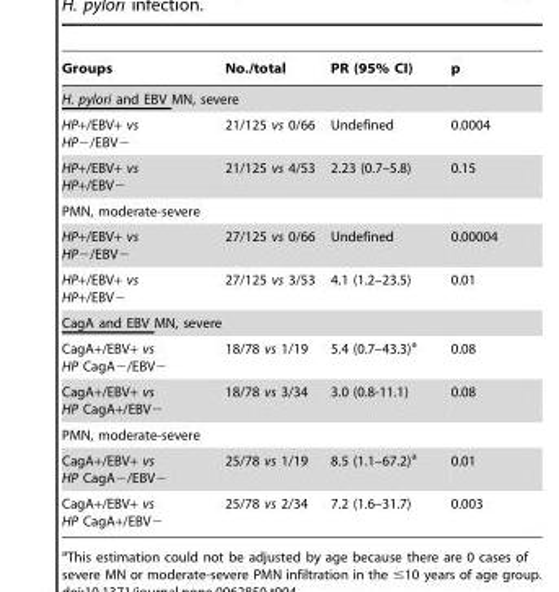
<table><thead><tr><td>Groups</td><td>No./total</td><td>PR (95% CI)</td><td>p</td></tr></thead><tbody><tr><td colspan="4">H. pylori and EBV MN, severe</td></tr><tr><td>HP+/EBV+ vs HP−/EBV−</td><td>21/125 vs 0/66</td><td>Undefined</td><td>0.0004</td></tr><tr><td>HP+/EBV+ vs HP+/EBV−</td><td>21/125 vs 4/53</td><td>2.23 (0.7–5.8)</td><td>0.15</td></tr><tr><td colspan="4">PMN, moderate-severe</td></tr><tr><td>HP+/EBV+ vs HP−/EBV−</td><td>27/125 vs 0/66</td><td>Undefined</td><td>0.00004</td></tr><tr><td>HP+/EBV+ vs HP+/EBV−</td><td>27/125 vs 3/53</td><td>4.1 (1.2–23.5)</td><td>0.01</td></tr><tr><td colspan="4">CagA and EBV MN, severe</td></tr><tr><td>CagA+/EBV+ vs HP CagA−/EBV−</td><td>18/78 vs 1/19</td><td>5.4 (0.7–43.3)<sup>a</sup></td><td>0.08</td></tr><tr><td>CagA+/EBV+ vs HP CagA+/EBV−</td><td>18/78 vs 3/34</td><td>3.0 (0.8-11.1)</td><td>0.08</td></tr><tr><td colspan="4">PMN, moderate-severe</td></tr><tr><td>CagA+/EBV+ vs HP CagA−/EBV−</td><td>25/78 vs 1/19</td><td>8.5 (1.1–67.2)<sup>a</sup></td><td>0.01</td></tr><tr><td>CagA+/EBV+ vs HP CagA+/EBV−</td><td>25/78 vs 2/34</td><td>7.2 (1.6–31.7)</td><td>0.003</td></tr></tbody></table>